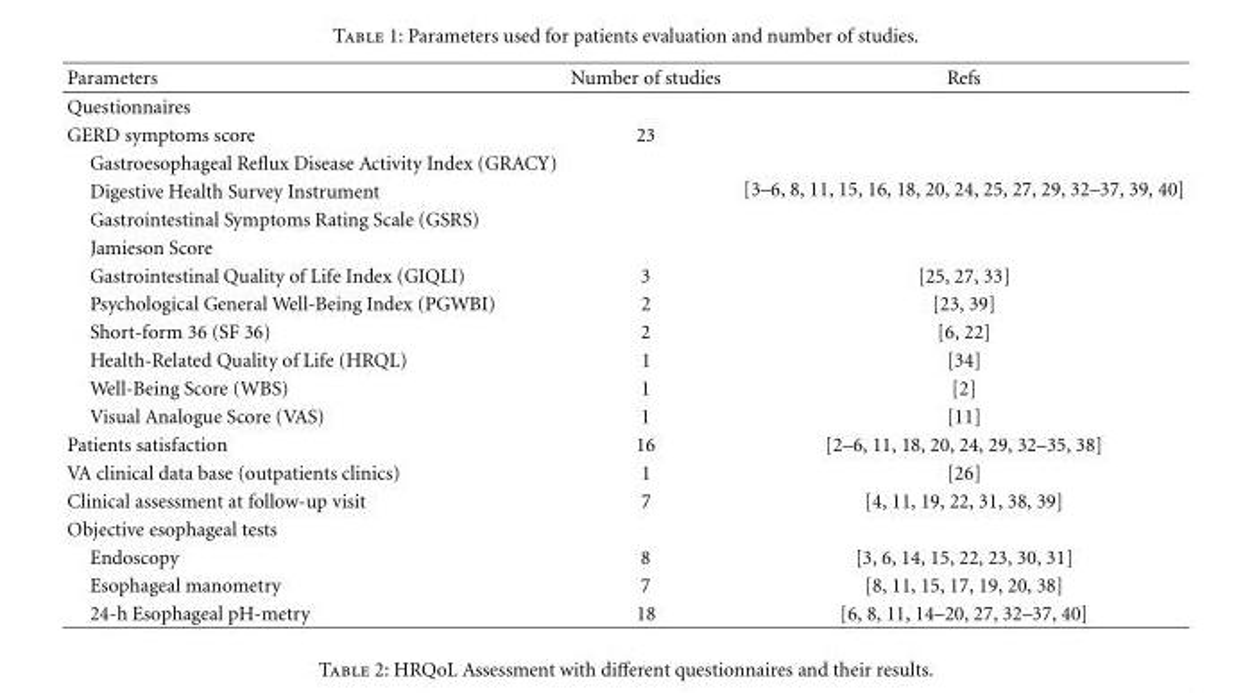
<table><thead><tr><td>Parameters</td><td>Number of studies</td><td>Refs</td></tr></thead><tbody><tr><td colspan="3">Questionnaires</td></tr><tr><td>GERD symptoms score</td><td>23</td><td rowspan="5">[3–6, 8, 11, 15, 16, 18, 20, 24, 25, 27, 29, 32–37, 39, 40]</td></tr><tr><td colspan="2">Gastroesophageal Reflux Disease Activity Index (GRACY)</td></tr><tr><td colspan="2">Digestive Health Survey Instrument</td></tr><tr><td colspan="2">Gastrointestinal Symptoms Rating Scale (GSRS)</td></tr><tr><td colspan="2">Jamieson Score</td></tr><tr><td>Gastrointestinal Quality of Life Index (GIQLI)</td><td>3</td><td>[25, 27, 33]</td></tr><tr><td>Psychological General Well-Being Index (PGWBI)</td><td>2</td><td>[23, 39]</td></tr><tr><td>Short-form 36 (SF 36)</td><td>2</td><td>[6, 22]</td></tr><tr><td>Health-Related Quality of Life (HRQL)</td><td>1</td><td>[34]</td></tr><tr><td>Well-Being Score (WBS)</td><td>1</td><td>[2]</td></tr><tr><td>Visual Analogue Score (VAS)</td><td>1</td><td>[11]</td></tr><tr><td>Patients satisfaction</td><td>16</td><td>[2–6, 11, 18, 20, 24, 29, 32–35, 38]</td></tr><tr><td>VA clinical data base (outpatients clinics)</td><td>1</td><td>[26]</td></tr><tr><td>Clinical assessment at follow-up visit</td><td>7</td><td>[4, 11, 19, 22, 31, 38, 39]</td></tr><tr><td colspan="3">Objective esophageal tests</td></tr><tr><td>Endoscopy</td><td>8</td><td>[3, 6, 14, 15, 22, 23, 30, 31]</td></tr><tr><td>Esophageal manometry</td><td>7</td><td>[8, 11, 15, 17, 19, 20, 38]</td></tr><tr><td>24-h Esophageal pH-metry</td><td>18</td><td>[6, 8, 11, 14–20, 27, 32–37, 40]</td></tr></tbody></table>